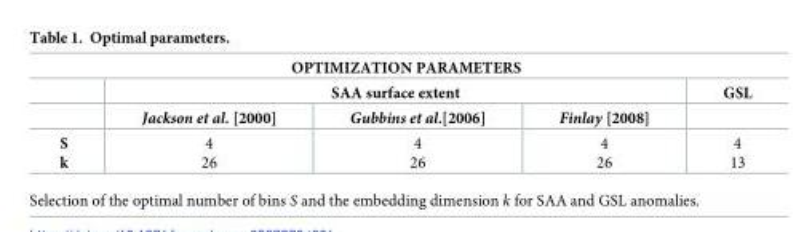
<table><thead><tr><td colspan="5">OPTIMIZATION PARAMETERS</td></tr><tr><td rowspan="2"></td><td colspan="3">SAA surface extent</td><td rowspan="2">GSL</td></tr><tr><td>Jackson et al. [2000]</td><td>Gubbins et al.[2006]</td><td>Finlay [2008]</td></tr></thead><tbody><tr><td>S k</td><td>4 26</td><td>4 26</td><td>4 26</td><td>4 13</td></tr></tbody></table>